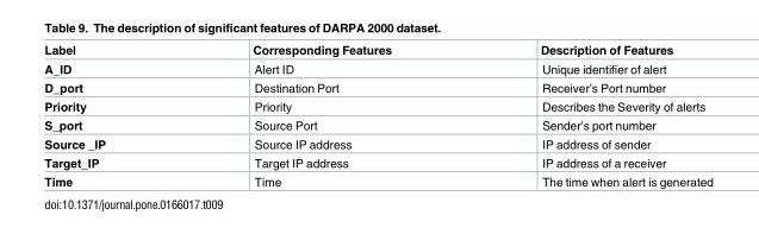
<table><thead><tr><td>Label</td><td>Corresponding Features</td><td>Description of Features</td></tr></thead><tbody><tr><td>A_ID</td><td>Alert ID</td><td>Unique identifier of alert</td></tr><tr><td>D_port</td><td>Destination Port</td><td>Receiver’s Port number</td></tr><tr><td>Priority</td><td>Priority</td><td>Describes the Severity of alerts</td></tr><tr><td>S_port</td><td>Source Port</td><td>Sender’s port number</td></tr><tr><td>Source _IP</td><td>Source IP address</td><td>IP address of sender</td></tr><tr><td>Target_IP</td><td>Target IP address</td><td>IP address of a receiver</td></tr><tr><td>Time</td><td>Time</td><td>The time when alert is generated</td></tr></tbody></table>